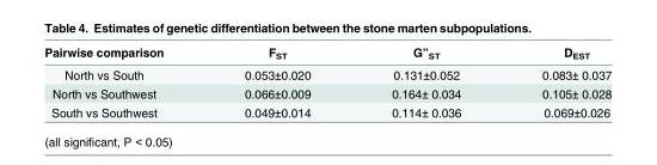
<table><thead><tr><td>Pairwise comparison</td><td>F<sub>ST</sub></td><td>G”<sub>ST</sub></td><td>D<sub>EST</sub></td></tr></thead><tbody><tr><td>North vs South</td><td>0.053±0.020</td><td>0.131±0.052</td><td>0.083± 0.037</td></tr><tr><td>North vs Southwest</td><td>0.066±0.009</td><td>0.164± 0.034</td><td>0.105± 0.028</td></tr><tr><td>South vs Southwest</td><td>0.049±0.014</td><td>0.114± 0.036</td><td>0.069±0.026</td></tr></tbody></table>